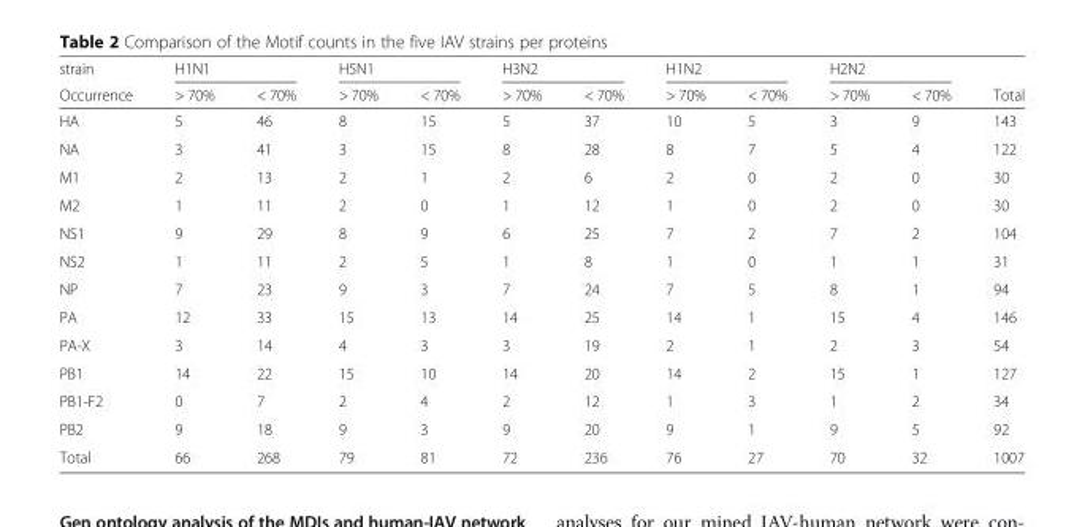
<table><thead><tr><td rowspan="2">strain Occurrence</td><td colspan="2">H1N1</td><td colspan="2">H5N1</td><td colspan="2">H3N2</td><td colspan="2">H1N2</td><td colspan="2">H2N2</td><td rowspan="2">Total</td></tr><tr><td>&gt; 70%</td><td>&lt; 70%</td><td>&gt; 70%</td><td>&lt; 70%</td><td>&gt; 70%</td><td>&lt; 70%</td><td>&gt; 70%</td><td>&lt; 70%</td><td>&gt; 70%</td><td>&lt; 70%</td></tr></thead><tbody><tr><td>HA</td><td>5</td><td>46</td><td>8</td><td>15</td><td>5</td><td>37</td><td>10</td><td>5</td><td>3</td><td>9</td><td>143</td></tr><tr><td>NA</td><td>3</td><td>41</td><td>3</td><td>15</td><td>8</td><td>28</td><td>8</td><td>7</td><td>5</td><td>4</td><td>122</td></tr><tr><td>M1</td><td>2</td><td>13</td><td>2</td><td>1</td><td>2</td><td>6</td><td>2</td><td>0</td><td>2</td><td>0</td><td>30</td></tr><tr><td>M2</td><td>1</td><td>11</td><td>2</td><td>0</td><td>1</td><td>12</td><td>1</td><td>0</td><td>2</td><td>0</td><td>30</td></tr><tr><td>NS1</td><td>9</td><td>29</td><td>8</td><td>9</td><td>6</td><td>25</td><td>7</td><td>2</td><td>7</td><td>2</td><td>104</td></tr><tr><td>NS2</td><td>1</td><td>11</td><td>2</td><td>5</td><td>1</td><td>8</td><td>1</td><td>0</td><td>1</td><td>1</td><td>31</td></tr><tr><td>NP</td><td>7</td><td>23</td><td>9</td><td>3</td><td>7</td><td>24</td><td>7</td><td>5</td><td>8</td><td>1</td><td>94</td></tr><tr><td>PA</td><td>12</td><td>33</td><td>15</td><td>13</td><td>14</td><td>25</td><td>14</td><td>1</td><td>15</td><td>4</td><td>146</td></tr><tr><td>PA-X</td><td>3</td><td>14</td><td>4</td><td>3</td><td>3</td><td>19</td><td>2</td><td>1</td><td>2</td><td>3</td><td>54</td></tr><tr><td>PB1</td><td>14</td><td>22</td><td>15</td><td>10</td><td>14</td><td>20</td><td>14</td><td>2</td><td>15</td><td>1</td><td>127</td></tr><tr><td>PB1-F2</td><td>0</td><td>7</td><td>2</td><td>4</td><td>2</td><td>12</td><td>1</td><td>3</td><td>1</td><td>2</td><td>34</td></tr><tr><td>PB2</td><td>9</td><td>18</td><td>9</td><td>3</td><td>9</td><td>20</td><td>9</td><td>1</td><td>9</td><td>5</td><td>92</td></tr><tr><td>Total</td><td>66</td><td>268</td><td>79</td><td>81</td><td>72</td><td>236</td><td>76</td><td>27</td><td>70</td><td>32</td><td>1007</td></tr></tbody></table>